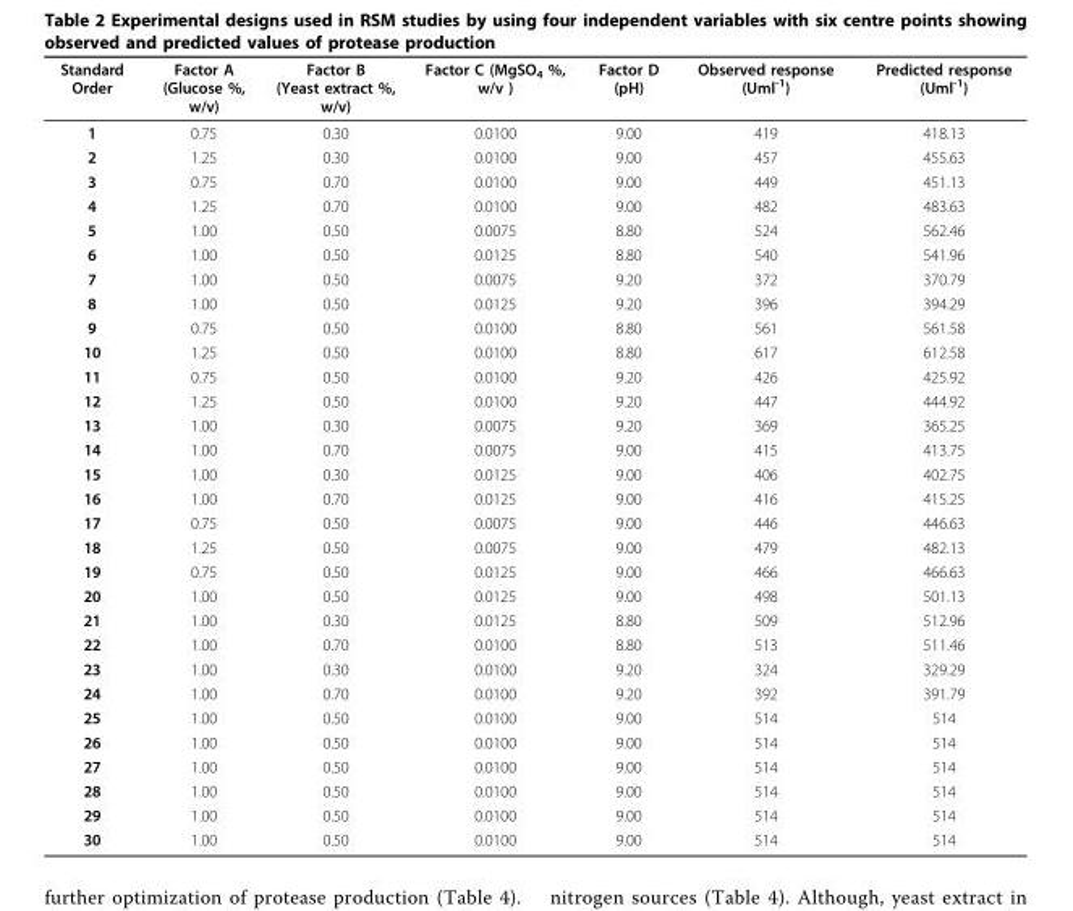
<table><tbody><tr><td>Standard Order</td><td>Factor A (Glucose %, w/v)</td><td>Factor B (Yeast extract %, w/v)</td><td>Factor C (MgSO<sub>4</sub> %, w/v )</td><td>Factor D (pH)</td><td>Observed response (Uml<sup>-1</sup>)</td><td>Predicted response (Uml<sup>-1</sup>)</td></tr><tr><td>1</td><td>0.75</td><td>0.30</td><td>0.0100</td><td>9.00</td><td>419</td><td>418.13</td></tr><tr><td>2</td><td>1.25</td><td>0.30</td><td>0.0100</td><td>9.00</td><td>457</td><td>455.63</td></tr><tr><td>3</td><td>0.75</td><td>0.70</td><td>0.0100</td><td>9.00</td><td>449</td><td>451.13</td></tr><tr><td>4</td><td>1.25</td><td>0.70</td><td>0.0100</td><td>9.00</td><td>482</td><td>483.63</td></tr><tr><td>5</td><td>1.00</td><td>0.50</td><td>0.0075</td><td>8.80</td><td>524</td><td>562.46</td></tr><tr><td>6</td><td>1.00</td><td>0.50</td><td>0.0125</td><td>8.80</td><td>540</td><td>541.96</td></tr><tr><td>7</td><td>1.00</td><td>0.50</td><td>0.0075</td><td>9.20</td><td>372</td><td>370.79</td></tr><tr><td>8</td><td>1.00</td><td>0.50</td><td>0.0125</td><td>9.20</td><td>396</td><td>394.29</td></tr><tr><td>9</td><td>0.75</td><td>0.50</td><td>0.0100</td><td>8.80</td><td>561</td><td>561.58</td></tr><tr><td>10</td><td>1.25</td><td>0.50</td><td>0.0100</td><td>8.80</td><td>617</td><td>612.58</td></tr><tr><td>11</td><td>0.75</td><td>0.50</td><td>0.0100</td><td>9.20</td><td>426</td><td>425.92</td></tr><tr><td>12</td><td>1.25</td><td>0.50</td><td>0.0100</td><td>9.20</td><td>447</td><td>444.92</td></tr><tr><td>13</td><td>1.00</td><td>0.30</td><td>0.0075</td><td>9.20</td><td>369</td><td>365.25</td></tr><tr><td>14</td><td>1.00</td><td>0.70</td><td>0.0075</td><td>9.00</td><td>415</td><td>413.75</td></tr><tr><td>15</td><td>1.00</td><td>0.30</td><td>0.0125</td><td>9.00</td><td>406</td><td>402.75</td></tr><tr><td>16</td><td>1.00</td><td>0.70</td><td>0.0125</td><td>9.00</td><td>416</td><td>415.25</td></tr><tr><td>17</td><td>0.75</td><td>0.50</td><td>0.0075</td><td>9.00</td><td>446</td><td>446.63</td></tr><tr><td>18</td><td>1.25</td><td>0.50</td><td>0.0075</td><td>9.00</td><td>479</td><td>482.13</td></tr><tr><td>19</td><td>0.75</td><td>0.50</td><td>0.0125</td><td>9.00</td><td>466</td><td>466.63</td></tr><tr><td>20</td><td>1.00</td><td>0.50</td><td>0.0125</td><td>9.00</td><td>498</td><td>501.13</td></tr><tr><td>21</td><td>1.00</td><td>0.30</td><td>0.0125</td><td>8.80</td><td>509</td><td>512.96</td></tr><tr><td>22</td><td>1.00</td><td>0.70</td><td>0.0100</td><td>8.80</td><td>513</td><td>511.46</td></tr><tr><td>23</td><td>1.00</td><td>0.30</td><td>0.0100</td><td>9.20</td><td>324</td><td>329.29</td></tr><tr><td>24</td><td>1.00</td><td>0.70</td><td>0.0100</td><td>9.20</td><td>392</td><td>391.79</td></tr><tr><td>25</td><td>1.00</td><td>0.50</td><td>0.0100</td><td>9.00</td><td>514</td><td>514</td></tr><tr><td>26</td><td>1.00</td><td>0.50</td><td>0.0100</td><td>9.00</td><td>514</td><td>514</td></tr><tr><td>27</td><td>1.00</td><td>0.50</td><td>0.0100</td><td>9.00</td><td>514</td><td>514</td></tr><tr><td>28</td><td>1.00</td><td>0.50</td><td>0.0100</td><td>9.00</td><td>514</td><td>514</td></tr><tr><td>29</td><td>1.00</td><td>0.50</td><td>0.0100</td><td>9.00</td><td>514</td><td>514</td></tr><tr><td>30</td><td>1.00</td><td>0.50</td><td>0.0100</td><td>9.00</td><td>514</td><td>514</td></tr></tbody></table>